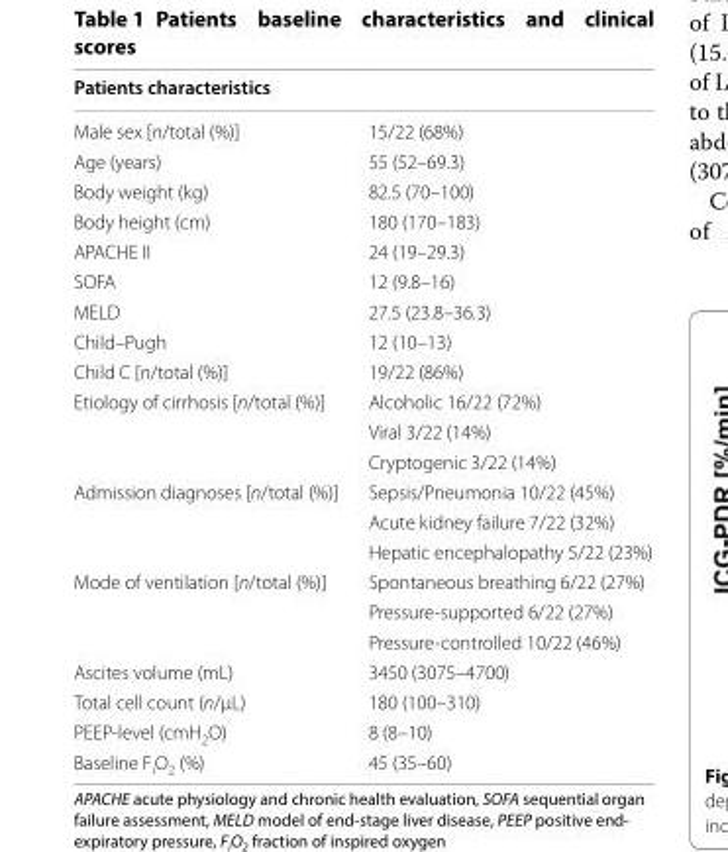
<table><thead><tr><td colspan="2">Patients characteristics</td></tr><tr><td>Male sex [n/total (%)]</td><td>15/22 (68%)</td></tr></thead><tbody><tr><td>Age (years)</td><td>55 (52–69.3)</td></tr><tr><td>Body weight (kg)</td><td>82.5 (70–100)</td></tr><tr><td>Body height (cm)</td><td>180 (170–183)</td></tr><tr><td>APACHE II</td><td>24 (19–29.3)</td></tr><tr><td>SOFA</td><td>12 (9.8–16)</td></tr><tr><td>MELD</td><td>27.5 (23.8–36.3)</td></tr><tr><td>Child–Pugh</td><td>12 (10–13)</td></tr><tr><td>Child C [n/total (%)]</td><td>19/22 (86%)</td></tr><tr><td rowspan="3">Etiology of cirrhosis [n/total (%)]</td><td>Alcoholic 16/22 (72%)</td></tr><tr><td>Viral 3/22 (14%)</td></tr><tr><td>Cryptogenic 3/22 (14%)</td></tr><tr><td rowspan="3">Admission diagnoses [n/total (%)]</td><td>Sepsis/Pneumonia 10/22 (45%)</td></tr><tr><td>Acute kidney failure 7/22 (32%)</td></tr><tr><td>Hepatic encephalopathy 5/22 (23%)</td></tr><tr><td rowspan="3">Mode of ventilation [n/total (%)]</td><td>Spontaneous breathing 6/22 (27%)</td></tr><tr><td>Pressure‑supported 6/22 (27%)</td></tr><tr><td>Pressure‑controlled 10/22 (46%)</td></tr><tr><td>Ascites volume (mL)</td><td>3450 (3075–4700)</td></tr><tr><td>Total cell count (n/μL)</td><td>180 (100–310)</td></tr><tr><td>PEEP‑level (cmH<sub>2</sub>O)</td><td>8 (8–10)</td></tr><tr><td>Baseline F<sub>i</sub>O<sub>2</sub> (%)</td><td>45 (35–60)</td></tr></tbody></table>